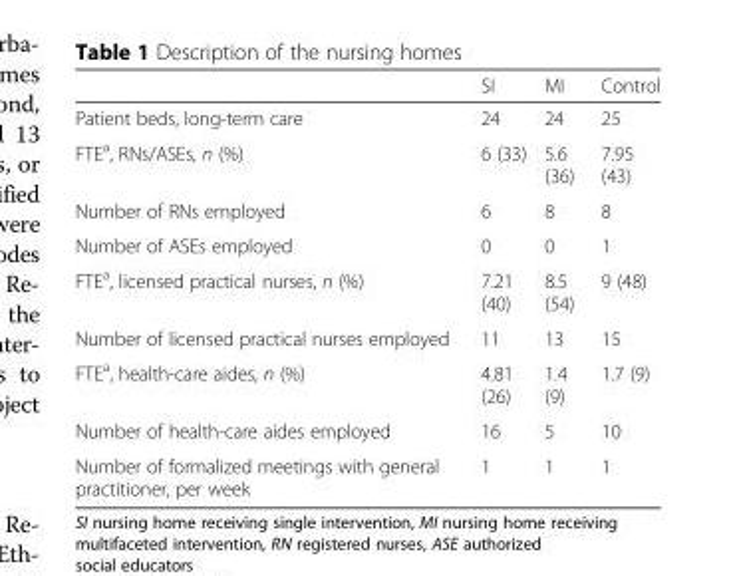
<table><thead><tr><td></td><td>SI</td><td>MI</td><td>Control</td></tr></thead><tbody><tr><td>Patient beds, long-term care</td><td>24</td><td>24</td><td>25</td></tr><tr><td>FTE<sup>a</sup>, RNs/ASEs, n (%)</td><td>6 (33)</td><td>5.6 (36)</td><td>7.95 (43)</td></tr><tr><td>Number of RNs employed</td><td>6</td><td>8</td><td>8</td></tr><tr><td>Number of ASEs employed</td><td>0</td><td>0</td><td>1</td></tr><tr><td>FTE<sup>a</sup>, licensed practical nurses, n (%)</td><td>7.21 (40)</td><td>8.5 (54)</td><td>9 (48)</td></tr><tr><td>Number of licensed practical nurses employed</td><td>11</td><td>13</td><td>15</td></tr><tr><td>FTE<sup>a</sup>, health-care aides, n (%)</td><td>4.81 (26)</td><td>1.4 (9)</td><td>1.7 (9)</td></tr><tr><td>Number of health-care aides employed</td><td>16</td><td>5</td><td>10</td></tr><tr><td>Number of formalized meetings with general practitioner, per week</td><td>1</td><td>1</td><td>1</td></tr></tbody></table>